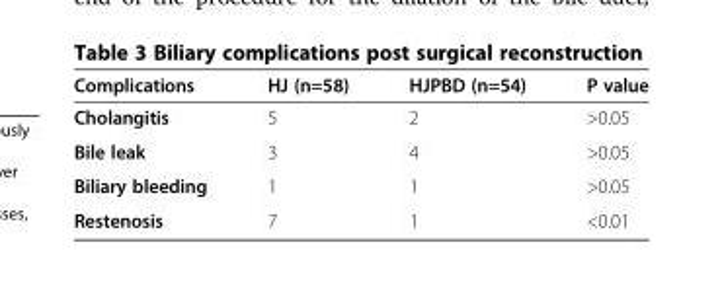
<table><thead><tr><td>Complications</td><td>HJ (n=58)</td><td>HJPBD (n=54)</td><td>P value</td></tr></thead><tbody><tr><td>Cholangitis</td><td>5</td><td>2</td><td>&gt;0.05</td></tr><tr><td>Bile leak</td><td>3</td><td>4</td><td>&gt;0.05</td></tr><tr><td>Biliary bleeding</td><td>1</td><td>1</td><td>&gt;0.05</td></tr><tr><td>Restenosis</td><td>7</td><td>1</td><td>&lt;0.01</td></tr></tbody></table>